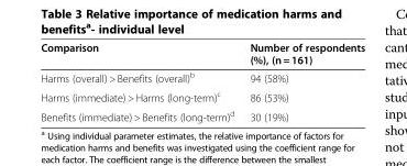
<table><thead><tr><td>Comparison</td><td>Number of respondents (%), (n = 161)</td></tr></thead><tbody><tr><td>Harms (overall) &gt; Benefits (overall)<sup>b</sup></td><td>94 (58%)</td></tr><tr><td>Harms (immediate) &gt; Harms (long-term)<sup>c</sup></td><td>86 (53%)</td></tr><tr><td>Benefits (immediate) &gt; Benefits (long-term)<sup>d</sup></td><td>30 (19%)</td></tr></tbody></table>